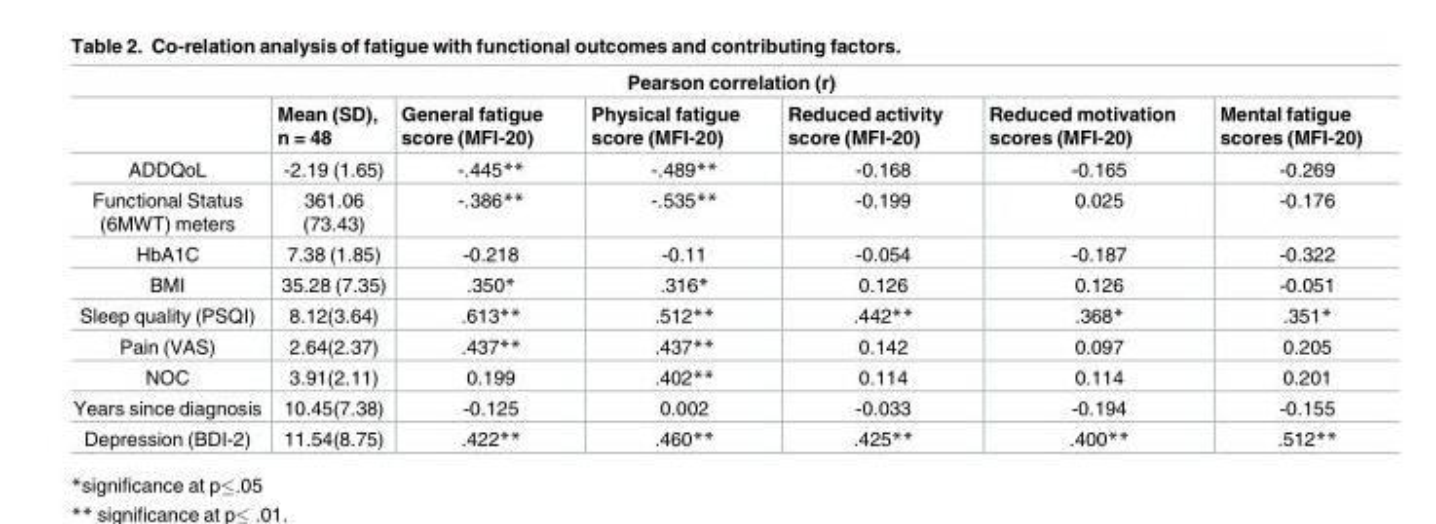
<table><thead><tr><td colspan="7">Pearson correlation (r)</td></tr><tr><td></td><td>Mean (SD), n = 48</td><td>General fatigue score (MFI-20)</td><td>Physical fatigue score (MFI-20)</td><td>Reduced activity score (MFI-20)</td><td>Reduced motivation scores (MFI-20)</td><td>Mental fatigue scores (MFI-20)</td></tr></thead><tbody><tr><td>ADDQoL</td><td>-2.19 (1.65)</td><td>-.445**</td><td>-.489**</td><td>-0.168</td><td>-0.165</td><td>-0.269</td></tr><tr><td>Functional Status (6MWT) meters</td><td>361.06 (73.43)</td><td>-.386**</td><td>-.535**</td><td>-0.199</td><td>0.025</td><td>-0.176</td></tr><tr><td>HbA1C</td><td>7.38 (1.85)</td><td>-0.218</td><td>-0.11</td><td>-0.054</td><td>-0.187</td><td>-0.322</td></tr><tr><td>BMI</td><td>35.28 (7.35)</td><td>.350*</td><td>.316*</td><td>0.126</td><td>0.126</td><td>-0.051</td></tr><tr><td>Sleep quality (PSQI)</td><td>8.12(3.64)</td><td>.613**</td><td>.512**</td><td>.442**</td><td>.368*</td><td>.351*</td></tr><tr><td>Pain (VAS)</td><td>2.64(2.37)</td><td>.437**</td><td>.437**</td><td>0.142</td><td>0.097</td><td>0.205</td></tr><tr><td>NOC</td><td>3.91(2.11)</td><td>0.199</td><td>.402**</td><td>0.114</td><td>0.114</td><td>0.201</td></tr><tr><td>Years since diagnosis</td><td>10.45(7.38)</td><td>-0.125</td><td>0.002</td><td>-0.033</td><td>-0.194</td><td>-0.155</td></tr><tr><td>Depression (BDI-2)</td><td>11.54(8.75)</td><td>.422**</td><td>.460**</td><td>.425**</td><td>.400**</td><td>.512**</td></tr></tbody></table>